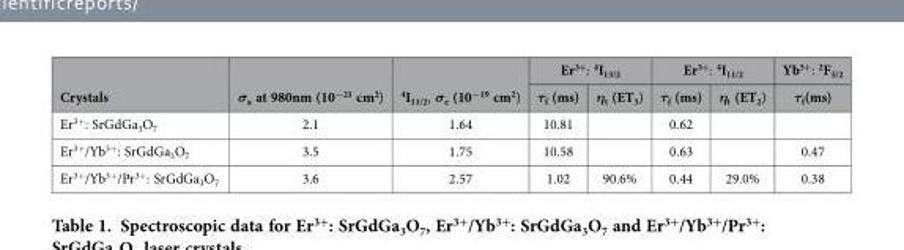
<table><thead><tr><td rowspan="2">Crystals</td><td rowspan="2">σ<sub>a</sub> at 980nm (10<sup>−21</sup> cm<sup>2</sup>)</td><td rowspan="2"><sup>4</sup>I<sub>11/2</sub>, σ<sub>e</sub> (10<sup>−19</sup> cm<sup>2</sup>)</td><td colspan="2">Er<sup>3+</sup>: <sup>4</sup>I<sub>13/2</sub></td><td colspan="2">Er<sup>3+</sup>: <sup>4</sup>I<sub>11/2</sub></td><td rowspan="2">Yb<sup>3+</sup>: <sup>2</sup>F<sub>5/2</sub> τ<sub>f</sub>(ms)</td></tr><tr><td>τ<sub>f</sub> (ms)</td><td>η<sub>t</sub> (ET<sub>3</sub>)</td><td>τ<sub>f</sub> (ms)</td><td>η<sub>t</sub> (ET<sub>2</sub>)</td></tr></thead><tbody><tr><td>Er<sup>3+</sup>: SrGdGa<sub>3</sub>O<sub>7</sub></td><td>2.1</td><td>1.64</td><td>10.81</td><td></td><td>0.62</td><td></td><td></td></tr><tr><td>Er<sup>3+</sup>/Yb<sup>3+</sup>: SrGdGa<sub>3</sub>O<sub>7</sub></td><td>3.5</td><td>1.75</td><td>10.58</td><td></td><td>0.63</td><td></td><td>0.47</td></tr><tr><td>Er<sup>3+</sup>/Yb<sup>3+</sup>/Pr<sup>3+</sup>: SrGdGa<sub>3</sub>O<sub>7</sub></td><td>3.6</td><td>2.57</td><td>1.02</td><td>90.6%</td><td>0.44</td><td>29.0%</td><td>0.38</td></tr></tbody></table>